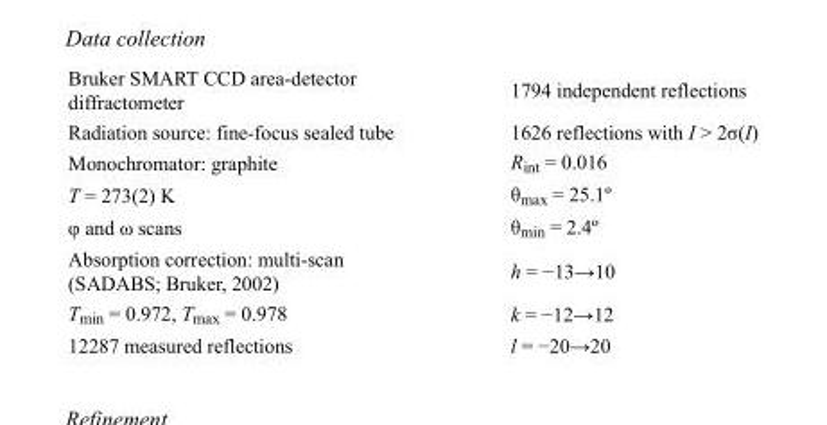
<table><tbody><tr><td>Bruker SMART CCD area-detector diffractometer</td><td>1794 independent reflections</td></tr><tr><td>Radiation source: fine-focus sealed tube</td><td>1626 reflections with I &gt; 2σ(I)</td></tr><tr><td>Monochromator: graphite</td><td>R<sub>int</sub> = 0.016</td></tr><tr><td>T = 273(2) K</td><td>θ<sub>max</sub> = 25.1º</td></tr><tr><td>φ and ω scans</td><td>θ<sub>min</sub> = 2.4º</td></tr><tr><td>Absorption correction: multi-scan (SADABS; Bruker, 2002)</td><td>h = −13→10</td></tr><tr><td>T<sub>min</sub> = 0.972, T<sub>max</sub> = 0.978</td><td>k = −12→12</td></tr><tr><td>12287 measured reflections</td><td>l = −20→20</td></tr></tbody></table>